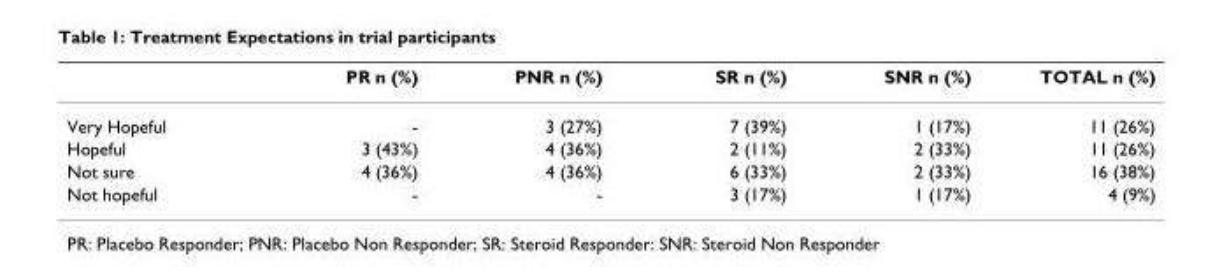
<table><thead><tr><td></td><td>PR n (%)</td><td>PNR n (%)</td><td>SR n (%)</td><td>SNR n (%)</td><td>TOTAL n (%)</td></tr></thead><tbody><tr><td>Very Hopeful</td><td>-</td><td>3 (27%)</td><td>7 (39%)</td><td>1 (17%)</td><td>11 (26%)</td></tr><tr><td>Hopeful</td><td>3 (43%)</td><td>4 (36%)</td><td>2 (11%)</td><td>2 (33%)</td><td>11 (26%)</td></tr><tr><td>Not sure</td><td>4 (36%)</td><td>4 (36%)</td><td>6 (33%)</td><td>2 (33%)</td><td>16 (38%)</td></tr><tr><td>Not hopeful</td><td>-</td><td>-</td><td>3 (17%)</td><td>1 (17%)</td><td>4 (9%)</td></tr></tbody></table>